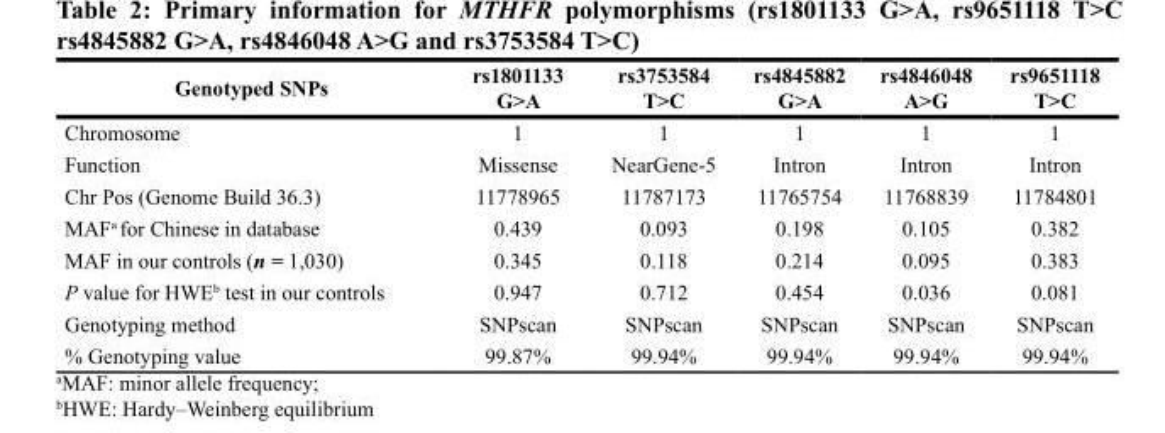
<table><thead><tr><td>Genotyped SNPs</td><td>rs1801133 G&gt;A</td><td>rs3753584 T&gt;C</td><td>rs4845882 G&gt;A</td><td>rs4846048 A&gt;G</td><td>rs9651118 T&gt;C</td></tr></thead><tbody><tr><td>Chromosome</td><td>1</td><td>1</td><td>1</td><td>1</td><td>1</td></tr><tr><td>Function</td><td>Missense</td><td>NearGene-5</td><td>Intron</td><td>Intron</td><td>Intron</td></tr><tr><td>Chr Pos (Genome Build 36.3)</td><td>11778965</td><td>11787173</td><td>11765754</td><td>11768839</td><td>11784801</td></tr><tr><td>MAF<sup>a</sup> for Chinese in database</td><td>0.439</td><td>0.093</td><td>0.198</td><td>0.105</td><td>0.382</td></tr><tr><td>MAF in our controls (n = 1,030)</td><td>0.345</td><td>0.118</td><td>0.214</td><td>0.095</td><td>0.383</td></tr><tr><td>P value for HWE<sup>b</sup> test in our controls</td><td>0.947</td><td>0.712</td><td>0.454</td><td>0.036</td><td>0.081</td></tr><tr><td>Genotyping method</td><td>SNPscan</td><td>SNPscan</td><td>SNPscan</td><td>SNPscan</td><td>SNPscan</td></tr><tr><td>% Genotyping value</td><td>99.87%</td><td>99.94%</td><td>99.94%</td><td>99.94%</td><td>99.94%</td></tr></tbody></table>